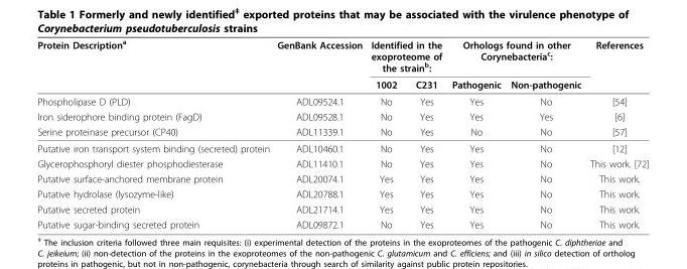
<table><thead><tr><td rowspan="2">Protein Description<sup>a</sup></td><td rowspan="2">GenBank Accession</td><td colspan="2">Identified in the exoproteome of the strain<sup>b</sup>:</td><td colspan="2">Orhologs found in other Corynebacteria<sup>c</sup>:</td><td rowspan="2">References</td></tr><tr><td>1002</td><td>C231</td><td>Pathogenic</td><td>Non-pathogenic</td></tr></thead><tbody><tr><td>Phospholipase D (PLD)</td><td>ADL09524.1</td><td>No</td><td>Yes</td><td>Yes</td><td>No</td><td>[54]</td></tr><tr><td>Iron siderophore binding protein (FagD)</td><td>ADL09528.1</td><td>No</td><td>Yes</td><td>Yes</td><td>Yes</td><td>[6]</td></tr><tr><td>Serine proteinase precursor (CP40)</td><td>ADL11339.1</td><td>No</td><td>Yes</td><td>No</td><td>No</td><td>[57]</td></tr><tr><td>Putative iron transport system binding (secreted) protein</td><td>ADL10460.1</td><td>No</td><td>Yes</td><td>Yes</td><td>No</td><td>[12]</td></tr><tr><td>Glycerophosphoryl diester phosphodiesterase</td><td>ADL11410.1</td><td>No</td><td>Yes</td><td>Yes</td><td>No</td><td>This work. [72]</td></tr><tr><td>Putative surface-anchored membrane protein</td><td>ADL20074.1</td><td>Yes</td><td>Yes</td><td>Yes</td><td>No</td><td>This work.</td></tr><tr><td>Putative hydrolase (lysozyme-like)</td><td>ADL20788.1</td><td>Yes</td><td>Yes</td><td>Yes</td><td>No</td><td>This work.</td></tr><tr><td>Putative secreted protein</td><td>ADL21714.1</td><td>Yes</td><td>Yes</td><td>Yes</td><td>No</td><td>This work.</td></tr><tr><td>Putative sugar-binding secreted protein</td><td>ADL09872.1</td><td>No</td><td>Yes</td><td>Yes</td><td>No</td><td>This work.</td></tr></tbody></table>